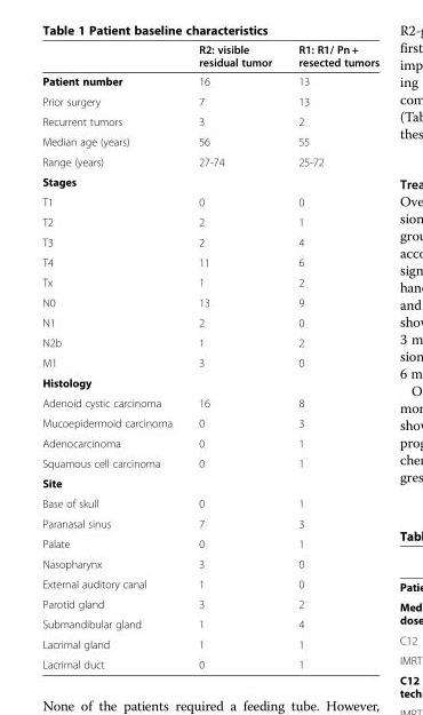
<table><thead><tr><td></td><td>R2: visible residual tumor</td><td>R1: R1/ Pn + resected tumors</td></tr></thead><tbody><tr><td>Patient number</td><td>16</td><td>13</td></tr><tr><td>Prior surgery</td><td>7</td><td>13</td></tr><tr><td>Recurrent tumors</td><td>3</td><td>2</td></tr><tr><td>Median age (years)</td><td>56</td><td>55</td></tr><tr><td>Range (years)</td><td>27-74</td><td>25-72</td></tr><tr><td colspan="3">Stages</td></tr><tr><td>T1</td><td>0</td><td>0</td></tr><tr><td>T2</td><td>2</td><td>1</td></tr><tr><td>T3</td><td>2</td><td>4</td></tr><tr><td>T4</td><td>11</td><td>6</td></tr><tr><td>Tx</td><td>1</td><td>2</td></tr><tr><td>N0</td><td>13</td><td>9</td></tr><tr><td>N1</td><td>2</td><td>0</td></tr><tr><td>N2b</td><td>1</td><td>2</td></tr><tr><td>M1</td><td>3</td><td>0</td></tr><tr><td colspan="3">Histology</td></tr><tr><td>Adenoid cystic carcinoma</td><td>16</td><td>8</td></tr><tr><td>Mucoepidermoid carcinoma</td><td>0</td><td>3</td></tr><tr><td>Adenocarcinoma</td><td>0</td><td>1</td></tr><tr><td>Squamous cell carcinoma</td><td>0</td><td>1</td></tr><tr><td colspan="3">Site</td></tr><tr><td>Base of skull</td><td>0</td><td>1</td></tr><tr><td>Paranasal sinus</td><td>7</td><td>3</td></tr><tr><td>Palate</td><td>0</td><td>1</td></tr><tr><td>Nasopharynx</td><td>3</td><td>0</td></tr><tr><td>External auditory canal</td><td>1</td><td>0</td></tr><tr><td>Parotid gland</td><td>3</td><td>2</td></tr><tr><td>Submandibular gland</td><td>1</td><td>4</td></tr><tr><td>Lacrimal gland</td><td>1</td><td>1</td></tr><tr><td>Lacrimal duct</td><td>0</td><td>1</td></tr></tbody></table>